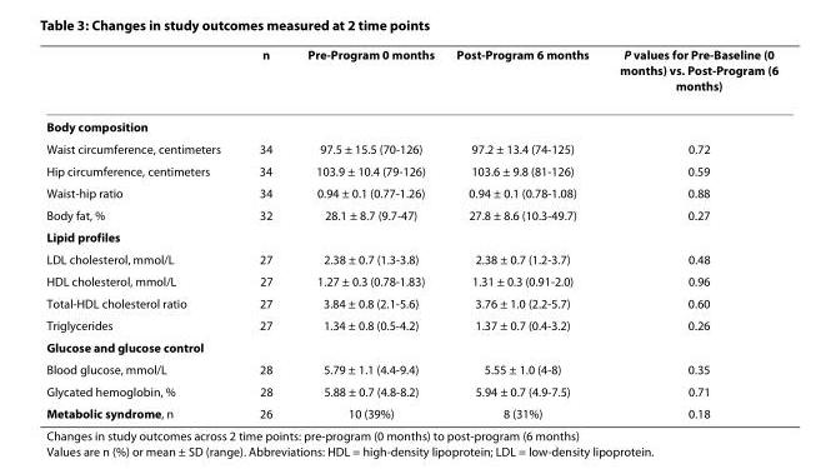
<table><thead><tr><td></td><td>n</td><td>Pre-Program 0 months</td><td>Post-Program 6 months</td><td>P values for Pre-Baseline (0 months) vs. Post-Program (6 months)</td></tr></thead><tbody><tr><td colspan="5">Body composition</td></tr><tr><td>Waist circumference, centimeters</td><td>34</td><td>97.5 ± 15.5 (70-126)</td><td>97.2 ± 13.4 (74-125)</td><td>0.72</td></tr><tr><td>Hip circumference, centimeters</td><td>34</td><td>103.9 ± 10.4 (79-126)</td><td>103.6 ± 9.8 (81-126)</td><td>0.59</td></tr><tr><td>Waist-hip ratio</td><td>34</td><td>0.94 ± 0.1 (0.77-1.26)</td><td>0.94 ± 0.1 (0.78-1.08)</td><td>0.88</td></tr><tr><td>Body fat, %</td><td>32</td><td>28.1 ± 8.7 (9.7-47)</td><td>27.8 ± 8.6 (10.3-49.7)</td><td>0.27</td></tr><tr><td colspan="5">Lipid profiles</td></tr><tr><td>LDL cholesterol, mmol/L</td><td>27</td><td>2.38 ± 0.7 (1.3-3.8)</td><td>2.38 ± 0.7 (1.2-3.7)</td><td>0.48</td></tr><tr><td>HDL cholesterol, mmol/L</td><td>27</td><td>1.27 ± 0.3 (0.78-1.83)</td><td>1.31 ± 0.3 (0.91-2.0)</td><td>0.96</td></tr><tr><td>Total-HDL cholesterol ratio</td><td>27</td><td>3.84 ± 0.8 (2.1-5.6)</td><td>3.76 ± 1.0 (2.2-5.7)</td><td>0.60</td></tr><tr><td>Triglycerides</td><td>27</td><td>1.34 ± 0.8 (0.5-4.2)</td><td>1.37 ± 0.7 (0.4-3.2)</td><td>0.26</td></tr><tr><td colspan="5">Glucose and glucose control</td></tr><tr><td>Blood glucose, mmol/L</td><td>28</td><td>5.79 ± 1.1 (4.4-9.4)</td><td>5.55 ± 1.0 (4-8)</td><td>0.35</td></tr><tr><td>Glycated hemoglobin, %</td><td>28</td><td>5.88 ± 0.7 (4.8-8.2)</td><td>5.94 ± 0.7 (4.9-7.5)</td><td>0.71</td></tr><tr><td>Metabolic syndrome, n</td><td>26</td><td>10 (39%)</td><td>8 (31%)</td><td>0.18</td></tr></tbody></table>